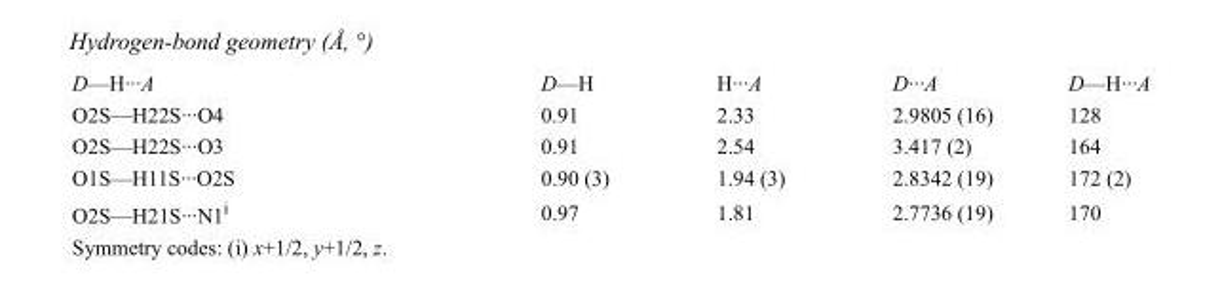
<table><tbody><tr><td>D—H···A</td><td>D—H</td><td>H···A</td><td>D···A</td><td>D—H···A</td></tr><tr><td>O2S—H22S···O4</td><td>0.91</td><td>2.33</td><td>2.9805 (16)</td><td>128</td></tr><tr><td>O2S—H22S···O3</td><td>0.91</td><td>2.54</td><td>3.417 (2)</td><td>164</td></tr><tr><td>O1S—H11S···O2S</td><td>0.90 (3)</td><td>1.94 (3)</td><td>2.8342 (19)</td><td>172 (2)</td></tr><tr><td>O2S—H21S···N1<sup>i</sup></td><td>0.97</td><td>1.81</td><td>2.7736 (19)</td><td>170</td></tr></tbody></table>